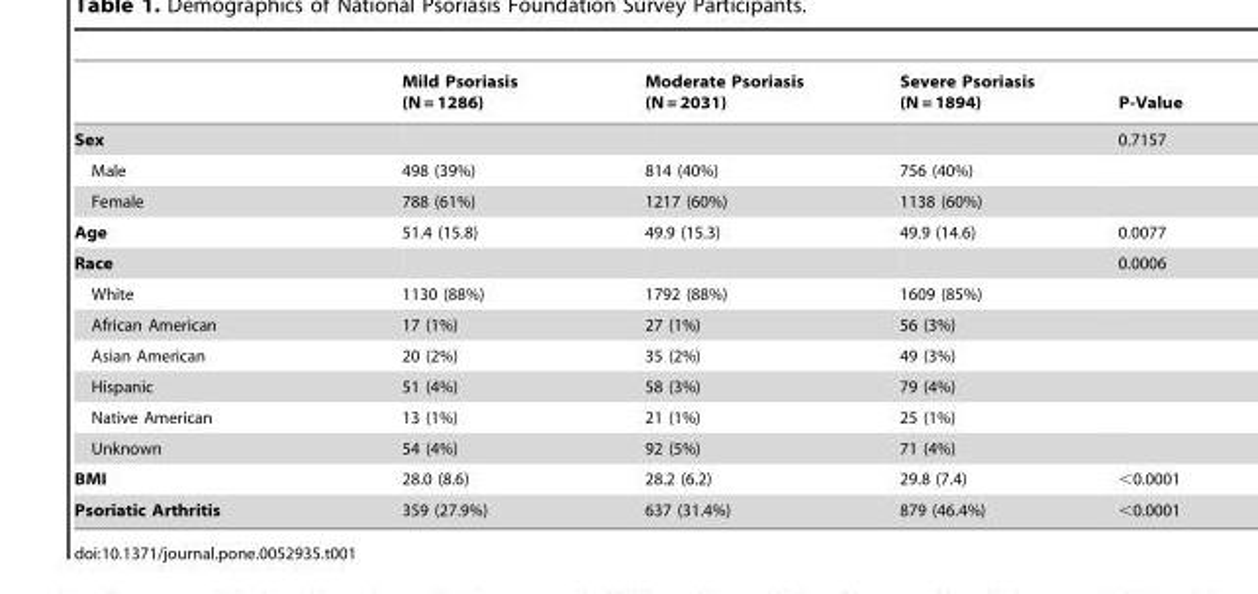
<table><thead><tr><td></td><td>Mild Psoriasis (N = 1286)</td><td>Moderate Psoriasis (N = 2031)</td><td>Severe Psoriasis (N = 1894)</td><td>P-Value</td></tr></thead><tbody><tr><td>Sex</td><td></td><td></td><td></td><td>0.7157</td></tr><tr><td>Male</td><td>498 (39%)</td><td>814 (40%)</td><td>756 (40%)</td><td></td></tr><tr><td>Female</td><td>788 (61%)</td><td>1217 (60%)</td><td>1138 (60%)</td><td></td></tr><tr><td>Age</td><td>51.4 (15.8)</td><td>49.9 (15.3)</td><td>49.9 (14.6)</td><td>0.0077</td></tr><tr><td>Race</td><td></td><td></td><td></td><td>0.0006</td></tr><tr><td>White</td><td>1130 (88%)</td><td>1792 (88%)</td><td>1609 (85%)</td><td></td></tr><tr><td>African American</td><td>17 (1%)</td><td>27 (1%)</td><td>56 (3%)</td><td></td></tr><tr><td>Asian American</td><td>20 (2%)</td><td>35 (2%)</td><td>49 (3%)</td><td></td></tr><tr><td>Hispanic</td><td>51 (4%)</td><td>58 (3%)</td><td>79 (4%)</td><td></td></tr><tr><td>Native American</td><td>13 (1%)</td><td>21 (1%)</td><td>25 (1%)</td><td></td></tr><tr><td>Unknown</td><td>54 (4%)</td><td>92 (5%)</td><td>71 (4%)</td><td></td></tr><tr><td>BMI</td><td>28.0 (8.6)</td><td>28.2 (6.2)</td><td>29.8 (7.4)</td><td>&lt;0.0001</td></tr><tr><td>Psoriatic Arthritis</td><td>359 (27.9%)</td><td>637 (31.4%)</td><td>879 (46.4%)</td><td>&lt;0.0001</td></tr></tbody></table>